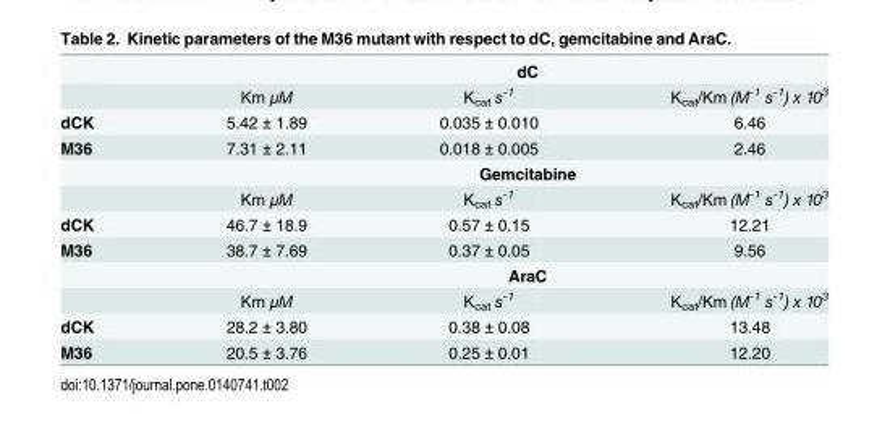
<table><thead><tr><td rowspan="2"></td><td colspan="3">dC</td></tr><tr><td>Km µM</td><td>K<sub>cat</sub> s<sup>-1</sup></td><td>K<sub>cat</sub>/Km (M<sup>-1</sup> s<sup>-1</sup>) x 10<sup>3</sup></td></tr></thead><tbody><tr><td>dCK</td><td>5.42 ± 1.89</td><td>0.035 ± 0.010</td><td>6.46</td></tr><tr><td rowspan="3">M36</td><td>7.31 ± 2.11</td><td>0.018 ± 0.005</td><td>2.46</td></tr><tr><td colspan="3">Gemcitabine</td></tr><tr><td>Km µM</td><td>K<sub>cat</sub> s<sup>-1</sup></td><td>K<sub>cat</sub>/Km (M<sup>-1</sup> s<sup>-1</sup>) x 10<sup>3</sup></td></tr><tr><td>dCK</td><td>46.7 ± 18.9</td><td>0.57 ± 0.15</td><td>12.21</td></tr><tr><td rowspan="3">M36</td><td>38.7 ± 7.69</td><td>0.37 ± 0.05</td><td>9.56</td></tr><tr><td colspan="3">AraC</td></tr><tr><td>Km µM</td><td>K<sub>cat</sub> s<sup>-1</sup></td><td>K<sub>cat</sub>/Km (M<sup>-1</sup> s<sup>-1</sup>) x 10<sup>3</sup></td></tr><tr><td>dCK</td><td>28.2 ± 3.80</td><td>0.38 ± 0.08</td><td>13.48</td></tr><tr><td>M36</td><td>20.5 ± 3.76</td><td>0.25 ± 0.01</td><td>12.20</td></tr></tbody></table>